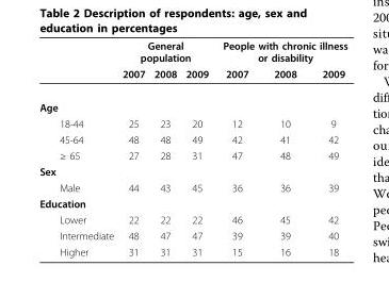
<table><thead><tr><td rowspan="2"></td><td colspan="3">General population</td><td colspan="3">People with chronic illness or disability</td></tr><tr><td>2007</td><td>2008</td><td>2009</td><td>2007</td><td>2008</td><td>2009</td></tr></thead><tbody><tr><td colspan="7">Age</td></tr><tr><td>18-44</td><td>25</td><td>23</td><td>20</td><td>12</td><td>10</td><td>9</td></tr><tr><td>45-64</td><td>48</td><td>48</td><td>49</td><td>42</td><td>41</td><td>42</td></tr><tr><td>≥ 65</td><td>27</td><td>28</td><td>31</td><td>47</td><td>48</td><td>49</td></tr><tr><td colspan="7">Sex</td></tr><tr><td>Male</td><td>44</td><td>43</td><td>45</td><td>36</td><td>36</td><td>39</td></tr><tr><td colspan="7">Education</td></tr><tr><td>Lower</td><td>22</td><td>22</td><td>22</td><td>46</td><td>45</td><td>42</td></tr><tr><td>Intermediate</td><td>48</td><td>47</td><td>47</td><td>39</td><td>39</td><td>40</td></tr><tr><td>Higher</td><td>31</td><td>31</td><td>31</td><td>15</td><td>16</td><td>18</td></tr></tbody></table>